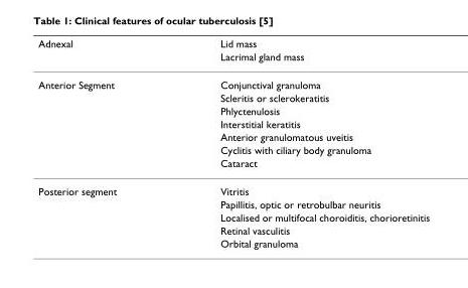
<table><thead><tr><td rowspan="2">Adnexal</td><td rowspan="2">Lid mass Lacrimal gland mass</td></tr><tr></tr></thead><tbody><tr><td rowspan="7">Anterior Segment</td><td>Conjunctival granuloma</td></tr><tr><td>Scleritis or sclerokeratitis</td></tr><tr><td>Phlyctenulosis</td></tr><tr><td>Interstitial keratitis</td></tr><tr><td>Anterior granulomatous uveitis</td></tr><tr><td>Cyclitis with ciliary body granuloma</td></tr><tr><td>Cataract</td></tr><tr><td rowspan="5">Posterior segment</td><td>Vitritis</td></tr><tr><td>Papillitis, optic or retrobulbar neuritis</td></tr><tr><td>Localised or multifocal choroiditis, chorioretinitis</td></tr><tr><td>Retinal vasculitis</td></tr><tr><td>Orbital granuloma</td></tr></tbody></table>